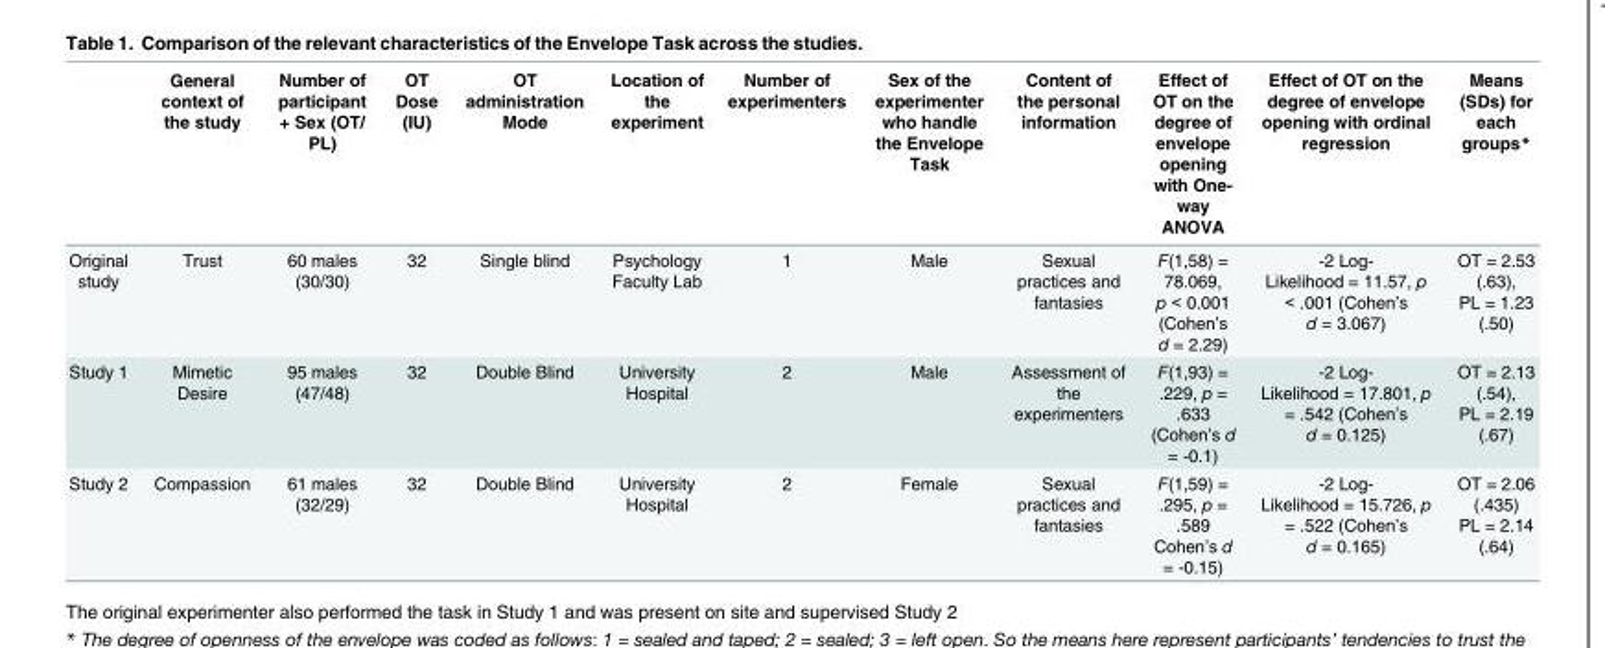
<table><thead><tr><td></td><td>General context of the study</td><td>Number of participant + Sex (OT/ PL)</td><td>OT Dose (IU)</td><td>OT administration Mode</td><td>Location of the experiment</td><td>Number of experimenters</td><td>Sex of the experimenter who handle the Envelope Task</td><td>Content of the personal information</td><td>Effect of OT on the degree of envelope opening with One- way ANOVA</td><td>Effect of OT on the degree of envelope opening with ordinal regression</td><td>Means (SDs) for each groups*</td></tr></thead><tbody><tr><td>Original study</td><td>Trust</td><td>60 males (30/30)</td><td>32</td><td>Single blind</td><td>Psychology Faculty Lab</td><td>1</td><td>Male</td><td>Sexual practices and fantasies</td><td>F(1,58) = 78.069, p &lt; 0.001 (Cohen’s d = 2.29)</td><td>-2 Log- Likelihood = 11.57, p &lt; .001 (Cohen’s d = 3.067)</td><td>OT = 2.53 (.63), PL = 1.23 (.50)</td></tr><tr><td>Study 1</td><td>Mimetic Desire</td><td>95 males (47/48)</td><td>32</td><td>Double Blind</td><td>University Hospital</td><td>2</td><td>Male</td><td>Assessment of the experimenters</td><td>F(1,93) = .229, p = .633 (Cohen’s d = -0.1)</td><td>-2 Log- Likelihood = 17.801, p = .542 (Cohen’s d = 0.125)</td><td>OT = 2.13 (.54), PL = 2.19 (.67)</td></tr><tr><td>Study 2</td><td>Compassion</td><td>61 males (32/29)</td><td>32</td><td>Double Blind</td><td>University Hospital</td><td>2</td><td>Female</td><td>Sexual practices and fantasies</td><td>F(1,59) = .295, p = .589 Cohen’s d = -0.15)</td><td>-2 Log- Likelihood = 15.726, p = .522 (Cohen’s d = 0.165)</td><td>OT = 2.06 (.435) PL = 2.14 (.64)</td></tr></tbody></table>